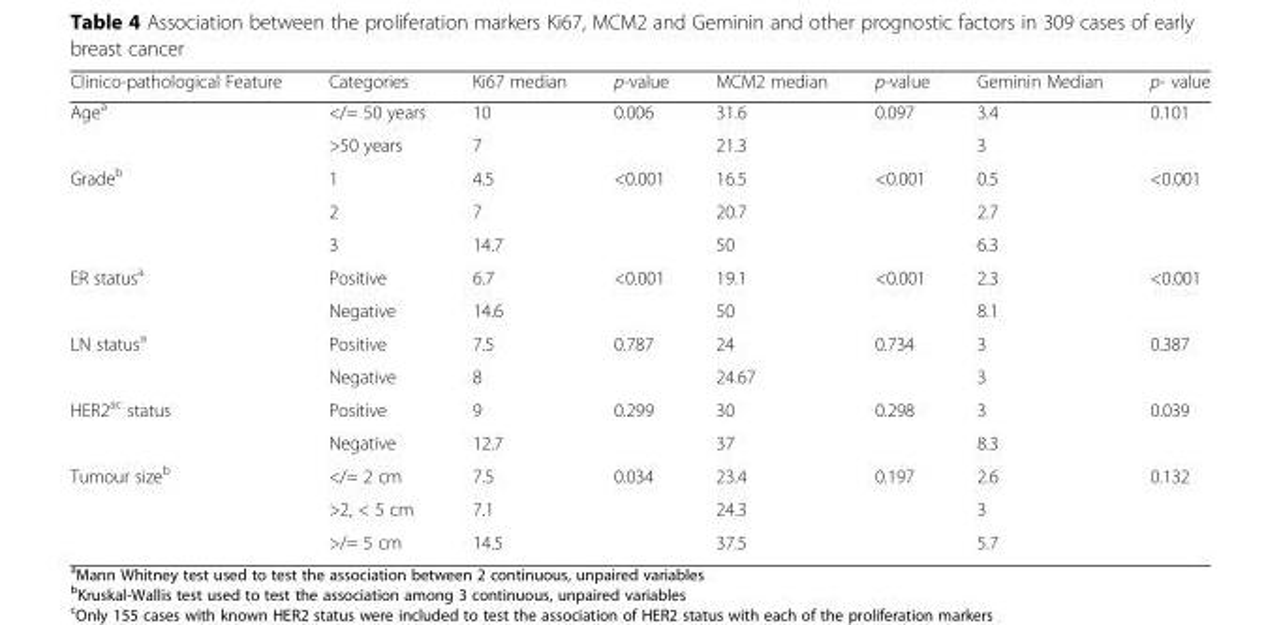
<table><thead><tr><td>Clinico-pathological Feature</td><td>Categories</td><td>Ki67 median</td><td>p-value</td><td>MCM2 median</td><td>p-value</td><td>Geminin Median</td><td>p- value</td></tr></thead><tbody><tr><td rowspan="2">Age<sup>a</sup></td><td>&lt;/= 50 years</td><td>10</td><td rowspan="2">0.006</td><td>31.6</td><td rowspan="2">0.097</td><td>3.4</td><td rowspan="2">0.101</td></tr><tr><td>&gt;50 years</td><td>7</td><td>21.3</td><td>3</td></tr><tr><td rowspan="3">Grade<sup>b</sup></td><td>1</td><td>4.5</td><td rowspan="3">&lt;0.001</td><td>16.5</td><td rowspan="3">&lt;0.001</td><td>0.5</td><td rowspan="3">&lt;0.001</td></tr><tr><td>2</td><td>7</td><td>20.7</td><td>2.7</td></tr><tr><td>3</td><td>14.7</td><td>50</td><td>6.3</td></tr><tr><td rowspan="2">ER status<sup>a</sup></td><td>Positive</td><td>6.7</td><td rowspan="2">&lt;0.001</td><td>19.1</td><td rowspan="2">&lt;0.001</td><td>2.3</td><td rowspan="2">&lt;0.001</td></tr><tr><td>Negative</td><td>14.6</td><td>50</td><td>8.1</td></tr><tr><td rowspan="2">LN status<sup>a</sup></td><td>Positive</td><td>7.5</td><td rowspan="2">0.787</td><td>24</td><td rowspan="2">0.734</td><td>3</td><td rowspan="2">0.387</td></tr><tr><td>Negative</td><td>8</td><td>24.67</td><td>3</td></tr><tr><td rowspan="2">HER2<sup>ac</sup> status</td><td>Positive</td><td>9</td><td rowspan="2">0.299</td><td>30</td><td rowspan="2">0.298</td><td>3</td><td rowspan="2">0.039</td></tr><tr><td>Negative</td><td>12.7</td><td>37</td><td>8.3</td></tr><tr><td rowspan="3">Tumour size<sup>b</sup></td><td>&lt;/= 2 cm</td><td>7.5</td><td rowspan="3">0.034</td><td>23.4</td><td rowspan="3">0.197</td><td>2.6</td><td rowspan="3">0.132</td></tr><tr><td>&gt;2, &lt; 5 cm</td><td>7.1</td><td>24.3</td><td>3</td></tr><tr><td>&gt;/= 5 cm</td><td>14.5</td><td>37.5</td><td>5.7</td></tr></tbody></table>